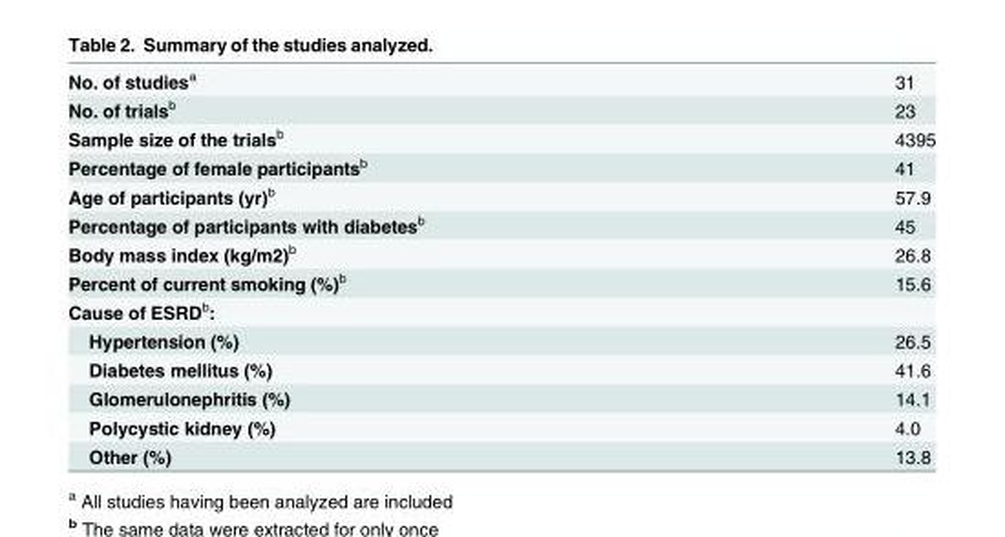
<table><tbody><tr><td>No. of studies<sup>a</sup></td><td>31</td></tr><tr><td>No. of trials<sup>b</sup></td><td>23</td></tr><tr><td>Sample size of the trials<sup>b</sup></td><td>4395</td></tr><tr><td>Percentage of female participants<sup>b</sup></td><td>41</td></tr><tr><td>Age of participants (yr)<sup>b</sup></td><td>57.9</td></tr><tr><td>Percentage of participants with diabetes<sup>b</sup></td><td>45</td></tr><tr><td>Body mass index (kg/m2)<sup>b</sup></td><td>26.8</td></tr><tr><td>Percent of current smoking (%)<sup>b</sup></td><td>15.6</td></tr><tr><td colspan="2">Cause of ESRD<sup>b</sup>:</td></tr><tr><td>Hypertension (%)</td><td>26.5</td></tr><tr><td>Diabetes mellitus (%)</td><td>41.6</td></tr><tr><td>Glomerulonephritis (%)</td><td>14.1</td></tr><tr><td>Polycystic kidney (%)</td><td>4.0</td></tr><tr><td>Other (%)</td><td>13.8</td></tr></tbody></table>